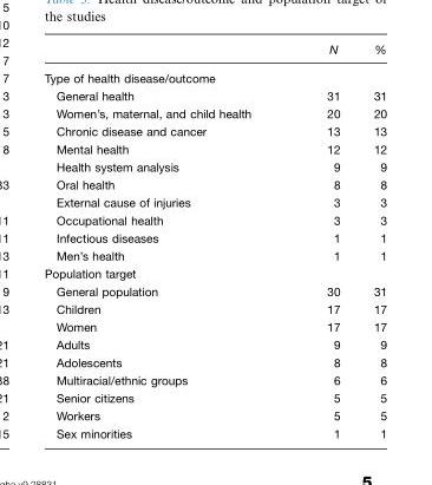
<table><thead><tr><td></td><td>N</td><td>%</td></tr></thead><tbody><tr><td colspan="3">Type of health disease/outcome</td></tr><tr><td>General health</td><td>31</td><td>31</td></tr><tr><td>Women’s, maternal, and child health</td><td>20</td><td>20</td></tr><tr><td>Chronic disease and cancer</td><td>13</td><td>13</td></tr><tr><td>Mental health</td><td>12</td><td>12</td></tr><tr><td>Health system analysis</td><td>9</td><td>9</td></tr><tr><td>Oral health</td><td>8</td><td>8</td></tr><tr><td>External cause of injuries</td><td>3</td><td>3</td></tr><tr><td>Occupational health</td><td>3</td><td>3</td></tr><tr><td>Infectious diseases</td><td>1</td><td>1</td></tr><tr><td>Men’s health</td><td>1</td><td>1</td></tr><tr><td colspan="3">Population target</td></tr><tr><td>General population</td><td>30</td><td>31</td></tr><tr><td>Children</td><td>17</td><td>17</td></tr><tr><td>Women</td><td>17</td><td>17</td></tr><tr><td>Adults</td><td>9</td><td>9</td></tr><tr><td>Adolescents</td><td>8</td><td>8</td></tr><tr><td>Multiracial/ethnic groups</td><td>6</td><td>6</td></tr><tr><td>Senior citizens</td><td>5</td><td>5</td></tr><tr><td>Workers</td><td>5</td><td>5</td></tr><tr><td>Sex minorities</td><td>1</td><td>1</td></tr></tbody></table>